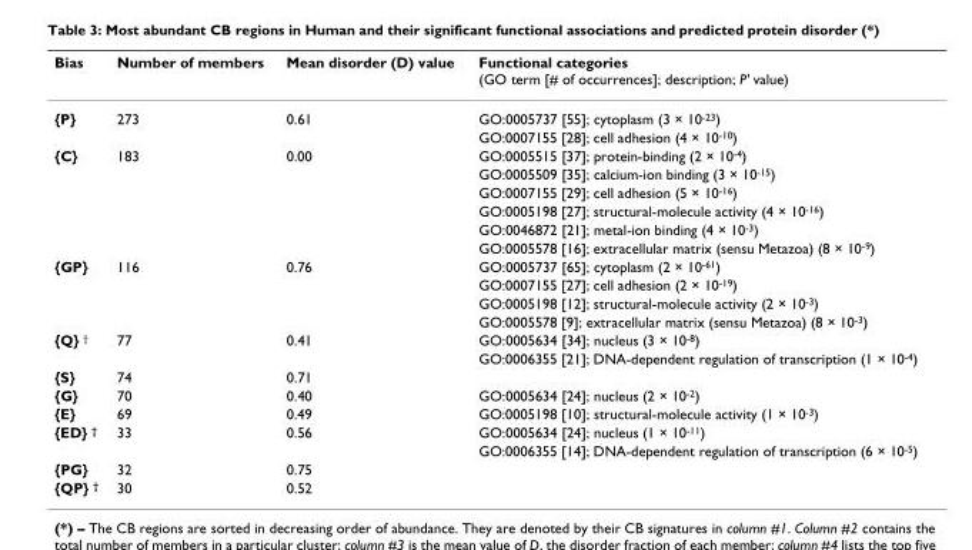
<table><thead><tr><td>Bias</td><td>Number of members</td><td>Mean disorder (D) value</td><td>Functional categories (GO term [# of occurrences]; description; P&#x27; value)</td></tr></thead><tbody><tr><td rowspan="2">{P}</td><td>273</td><td>0.61</td><td>GO:0005737 [55]; cytoplasm (3 × 10<sup>-23</sup>)</td></tr><tr><td></td><td></td><td>GO:0007155 [28]; cell adhesion (4 × 10<sup>-10</sup>)</td></tr><tr><td rowspan="6">{C}</td><td>183</td><td>0.00</td><td>GO:0005515 [37]; protein-binding (2 × 10<sup>-4</sup>)</td></tr><tr><td></td><td></td><td>GO:0005509 [35]; calcium-ion binding (3 × 10<sup>-15</sup>)</td></tr><tr><td></td><td></td><td>GO:0007155 [29]; cell adhesion (5 × 10<sup>-16</sup>)</td></tr><tr><td></td><td></td><td>GO:0005198 [27]; structural-molecule activity (4 × 10<sup>-16</sup>)</td></tr><tr><td></td><td></td><td>GO:0046872 [21]; metal-ion binding (4 × 10<sup>-3</sup>)</td></tr><tr><td></td><td></td><td>GO:0005578 [16]; extracellular matrix (sensu Metazoa) (8 × 10<sup>-9</sup>)</td></tr><tr><td rowspan="4">{GP}</td><td>116</td><td>0.76</td><td>GO:0005737 [65]; cytoplasm (2 × 10<sup>-61</sup>)</td></tr><tr><td></td><td></td><td>GO:0007155 [27]; cell adhesion (2 × 10<sup>-19</sup>)</td></tr><tr><td></td><td></td><td>GO:0005198 [12]; structural-molecule activity (2 × 10<sup>-3</sup>)</td></tr><tr><td></td><td></td><td>GO:0005578 [9]; extracellular matrix (sensu Metazoa) (8 × 10<sup>-3</sup>)</td></tr><tr><td rowspan="2">{Q} <sup>†</sup></td><td>77</td><td>0.41</td><td>GO:0005634 [34]; nucleus (3 × 10<sup>-8</sup>)</td></tr><tr><td></td><td></td><td>GO:0006355 [21]; DNA-dependent regulation of transcription (1 × 10<sup>-4</sup>)</td></tr><tr><td>{S}</td><td>74</td><td>0.71</td><td></td></tr><tr><td>{G}</td><td>70</td><td>0.40</td><td>GO:0005634 [24]; nucleus (2 × 10<sup>-2</sup>)</td></tr><tr><td>{E}</td><td>69</td><td>0.49</td><td>GO:0005198 [10]; structural-molecule activity (1 × 10<sup>-3</sup>)</td></tr><tr><td rowspan="2">{ED} <sup>†</sup></td><td>33</td><td>0.56</td><td>GO:0005634 [24]; nucleus (1 × 10<sup>-11</sup>)</td></tr><tr><td></td><td></td><td>GO:0006355 [14]; DNA-dependent regulation of transcription (6 × 10<sup>-5</sup>)</td></tr><tr><td>{PG}</td><td>32</td><td>0.75</td><td></td></tr><tr><td>{QP} <sup>†</sup></td><td>30</td><td>0.52</td><td></td></tr></tbody></table>